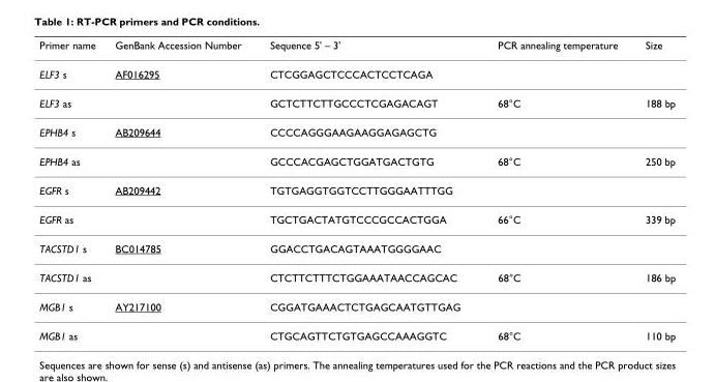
<table><thead><tr><td>Primer name</td><td>GenBank Accession Number</td><td>Sequence 5&#x27; – 3&#x27;</td><td>PCR annealing temperature</td><td>Size</td></tr></thead><tbody><tr><td>ELF3 s</td><td>AF016295</td><td>CTCGGAGCTCCCACTCCTCAGA</td><td></td><td></td></tr><tr><td>ELF3 as</td><td></td><td>GCTCTTCTTGCCCTCGAGACAGT</td><td>68°C</td><td>188 bp</td></tr><tr><td>EPHB4 s</td><td>AB209644</td><td>CCCCAGGGAAGAAGGAGAGCTG</td><td></td><td></td></tr><tr><td>EPHB4 as</td><td></td><td>GCCCACGAGCTGGATGACTGTG</td><td>68°C</td><td>250 bp</td></tr><tr><td>EGFR s</td><td>AB209442</td><td>TGTGAGGTGGTCCTTGGGAATTTGG</td><td></td><td></td></tr><tr><td>EGFR as</td><td></td><td>TGCTGACTATGTCCCGCCACTGGA</td><td>66°C</td><td>339 bp</td></tr><tr><td>TACSTD1 s</td><td>BC014785</td><td>GGACCTGACAGTAAATGGGGAAC</td><td></td><td></td></tr><tr><td>TACSTD1 as</td><td></td><td>CTCTTCTTTCTGGAAATAACCAGCAC</td><td>68°C</td><td>186 bp</td></tr><tr><td>MGB1 s</td><td>AY217100</td><td>CGGATGAAACTCTGAGCAATGTTGAG</td><td></td><td></td></tr><tr><td>MGB1 as</td><td></td><td>CTGCAGTTCTGTGAGCCAAAGGTC</td><td>68°C</td><td>110 bp</td></tr></tbody></table>